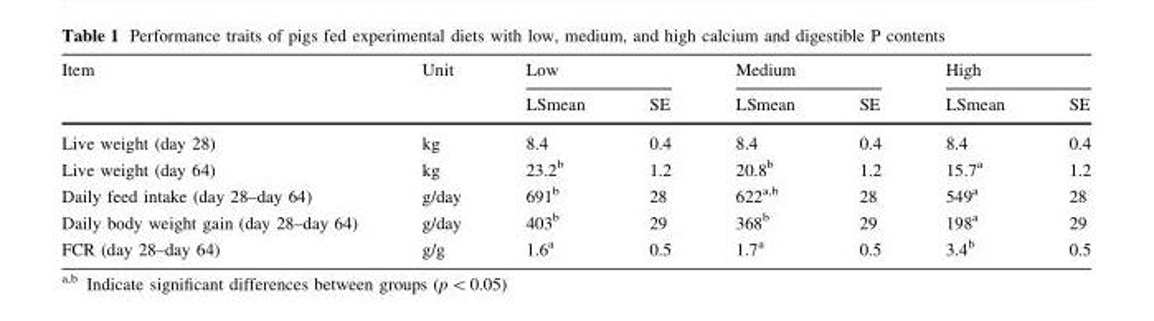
<table><thead><tr><td rowspan="2">Item</td><td rowspan="2">Unit</td><td colspan="2">Low</td><td colspan="2">Medium</td><td colspan="2">High</td></tr><tr><td>LSmean</td><td>SE</td><td>LSmean</td><td>SE</td><td>LSmean</td><td>SE</td></tr></thead><tbody><tr><td>Live weight (day 28)</td><td>kg</td><td>8.4</td><td>0.4</td><td>8.4</td><td>0.4</td><td>8.4</td><td>0.4</td></tr><tr><td>Live weight (day 64)</td><td>kg</td><td>23.2<sup>b</sup></td><td>1.2</td><td>20.8<sup>b</sup></td><td>1.2</td><td>15.7<sup>a</sup></td><td>1.2</td></tr><tr><td>Daily feed intake (day 28–day 64)</td><td>g/day</td><td>691<sup>b</sup></td><td>28</td><td>622<sup>a,b</sup></td><td>28</td><td>549<sup>a</sup></td><td>28</td></tr><tr><td>Daily body weight gain (day 28–day 64)</td><td>g/day</td><td>403<sup>b</sup></td><td>29</td><td>368<sup>b</sup></td><td>29</td><td>198<sup>a</sup></td><td>29</td></tr><tr><td>FCR (day 28–day 64)</td><td>g/g</td><td>1.6<sup>a</sup></td><td>0.5</td><td>1.7<sup>a</sup></td><td>0.5</td><td>3.4<sup>b</sup></td><td>0.5</td></tr></tbody></table>